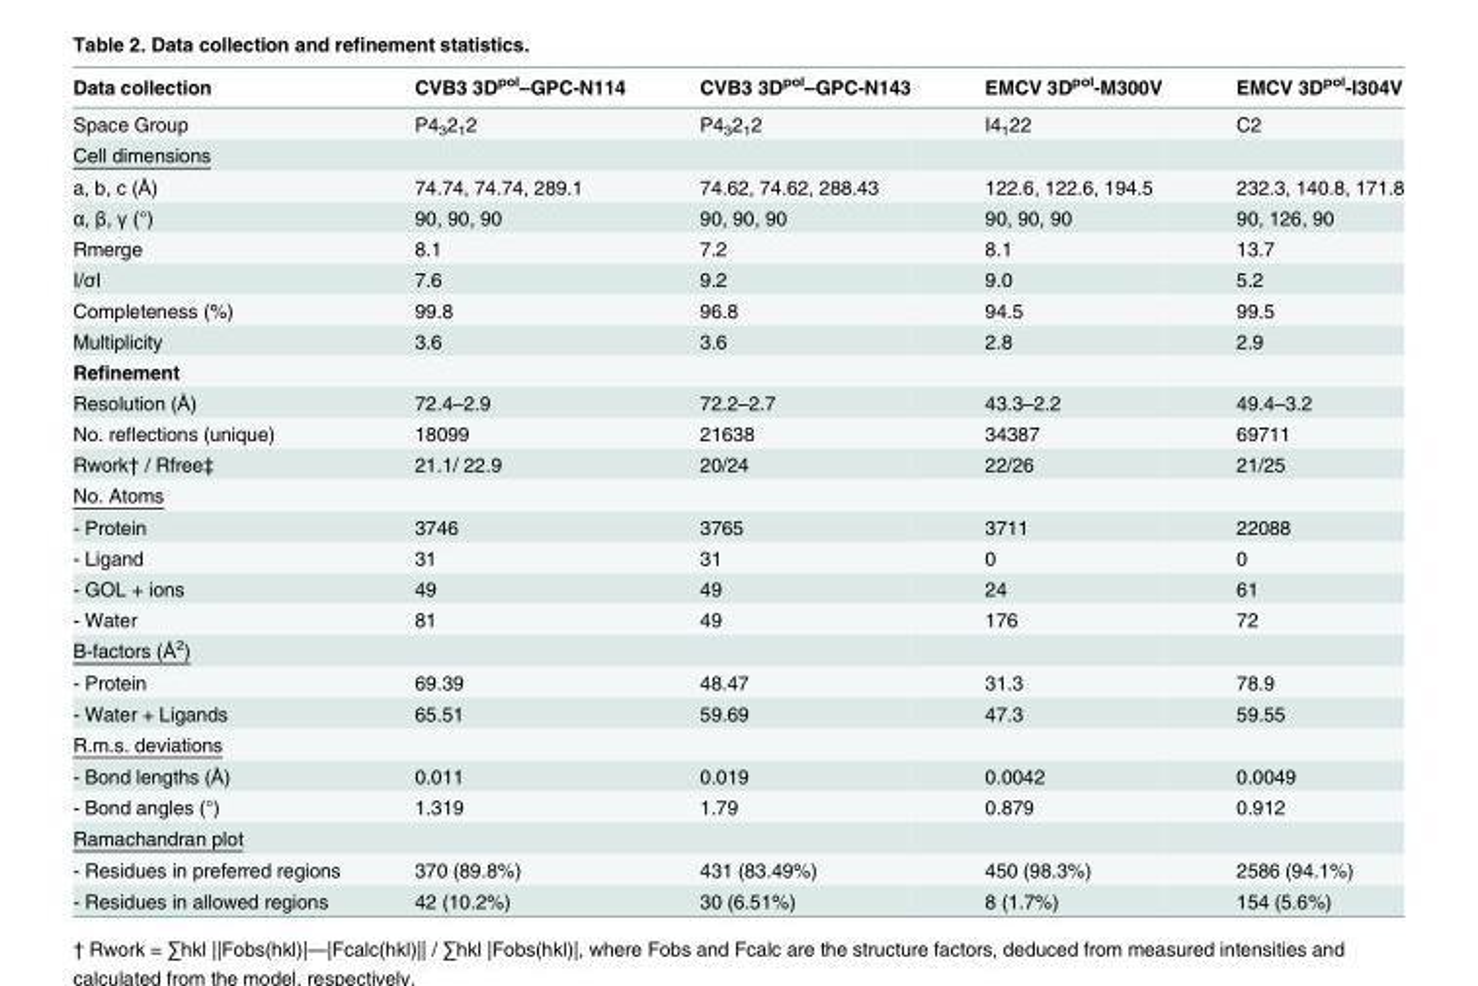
<table><thead><tr><td>Data collection</td><td>CVB3 3D<sup>pol</sup>–GPC-N114</td><td>CVB3 3D<sup>pol</sup>–GPC-N143</td><td>EMCV 3D<sup>pol</sup>-M300V</td><td>EMCV 3D<sup>pol</sup>-I304V</td></tr></thead><tbody><tr><td>Space Group</td><td>P4<sub>3</sub>2<sub>1</sub>2</td><td>P4<sub>3</sub>2<sub>1</sub>2</td><td>I4<sub>1</sub>22</td><td>C2</td></tr><tr><td colspan="5">Cell dimensions</td></tr><tr><td>a, b, c (Å)</td><td>74.74, 74.74, 289.1</td><td>74.62, 74.62, 288.43</td><td>122.6, 122.6, 194.5</td><td>232.3, 140.8, 171.8</td></tr><tr><td>α, β, γ (°)</td><td>90, 90, 90</td><td>90, 90, 90</td><td>90, 90, 90</td><td>90, 126, 90</td></tr><tr><td>Rmerge</td><td>8.1</td><td>7.2</td><td>8.1</td><td>13.7</td></tr><tr><td>I/σI</td><td>7.6</td><td>9.2</td><td>9.0</td><td>5.2</td></tr><tr><td>Completeness (%)</td><td>99.8</td><td>96.8</td><td>94.5</td><td>99.5</td></tr><tr><td>Multiplicity</td><td>3.6</td><td>3.6</td><td>2.8</td><td>2.9</td></tr><tr><td colspan="5">Refinement</td></tr><tr><td>Resolution (Å)</td><td>72.4–2.9</td><td>72.2–2.7</td><td>43.3–2.2</td><td>49.4–3.2</td></tr><tr><td>No. reflections (unique)</td><td>18099</td><td>21638</td><td>34387</td><td>69711</td></tr><tr><td>Rwork† / Rfree‡</td><td>21.1/ 22.9</td><td>20/24</td><td>22/26</td><td>21/25</td></tr><tr><td colspan="5">No. Atoms</td></tr><tr><td>- Protein</td><td>3746</td><td>3765</td><td>3711</td><td>22088</td></tr><tr><td>- Ligand</td><td>31</td><td>31</td><td>0</td><td>0</td></tr><tr><td>- GOL + ions</td><td>49</td><td>49</td><td>24</td><td>61</td></tr><tr><td>- Water</td><td>81</td><td>49</td><td>176</td><td>72</td></tr><tr><td colspan="5">B-factors (Å<sup>2</sup>)</td></tr><tr><td>- Protein</td><td>69.39</td><td>48.47</td><td>31.3</td><td>78.9</td></tr><tr><td>- Water + Ligands</td><td>65.51</td><td>59.69</td><td>47.3</td><td>59.55</td></tr><tr><td colspan="5">R.m.s. deviations</td></tr><tr><td>- Bond lengths (Å)</td><td>0.011</td><td>0.019</td><td>0.0042</td><td>0.0049</td></tr><tr><td>- Bond angles (°)</td><td>1.319</td><td>1.79</td><td>0.879</td><td>0.912</td></tr><tr><td colspan="5">Ramachandran plot</td></tr><tr><td>- Residues in preferred regions</td><td>370 (89.8%)</td><td>431 (83.49%)</td><td>450 (98.3%)</td><td>2586 (94.1%)</td></tr><tr><td>- Residues in allowed regions</td><td>42 (10.2%)</td><td>30 (6.51%)</td><td>8 (1.7%)</td><td>154 (5.6%)</td></tr></tbody></table>